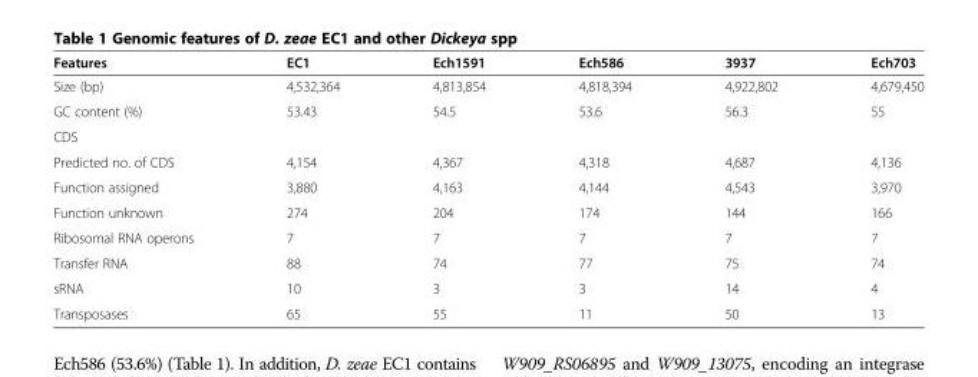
<table><thead><tr><td>Features</td><td>EC1</td><td>Ech1591</td><td>Ech586</td><td>3937</td><td>Ech703</td></tr></thead><tbody><tr><td>Size (bp)</td><td>4,532,364</td><td>4,813,854</td><td>4,818,394</td><td>4,922,802</td><td>4,679,450</td></tr><tr><td>GC content (%)</td><td>53.43</td><td>54.5</td><td>53.6</td><td>56.3</td><td>55</td></tr><tr><td colspan="6">CDS</td></tr><tr><td>Predicted no. of CDS</td><td>4,154</td><td>4,367</td><td>4,318</td><td>4,687</td><td>4,136</td></tr><tr><td>Function assigned</td><td>3,880</td><td>4,163</td><td>4,144</td><td>4,543</td><td>3,970</td></tr><tr><td>Function unknown</td><td>274</td><td>204</td><td>174</td><td>144</td><td>166</td></tr><tr><td>Ribosomal RNA operons</td><td>7</td><td>7</td><td>7</td><td>7</td><td>7</td></tr><tr><td>Transfer RNA</td><td>88</td><td>74</td><td>77</td><td>75</td><td>74</td></tr><tr><td>sRNA</td><td>10</td><td>3</td><td>3</td><td>14</td><td>4</td></tr><tr><td>Transposases</td><td>65</td><td>55</td><td>11</td><td>50</td><td>13</td></tr></tbody></table>